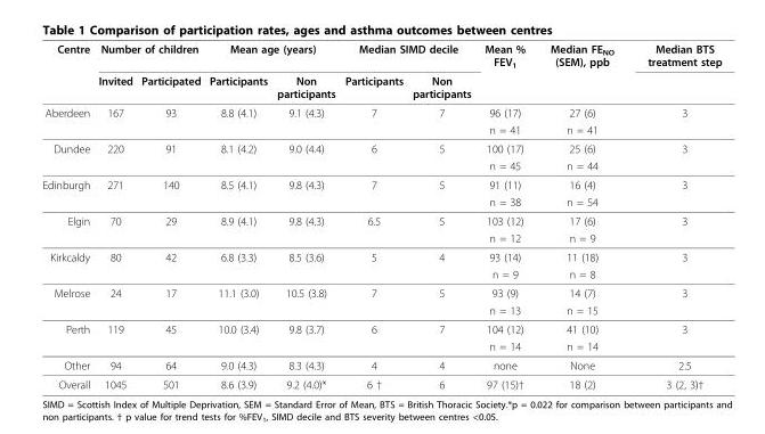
<table><thead><tr><td rowspan="2">Centre</td><td colspan="2">Number of children</td><td colspan="2">Mean age (years)</td><td colspan="2">Median SIMD decile</td><td rowspan="2">Mean % FEV<sub>1</sub></td><td rowspan="2">Median FE<sub>NO</sub> (SEM), ppb</td><td rowspan="2">Median BTS treatment step</td></tr><tr><td>Invited</td><td>Participated</td><td>Participants</td><td>Non participants</td><td>Participants</td><td>Non participants</td></tr></thead><tbody><tr><td rowspan="2">Aberdeen</td><td>167</td><td>93</td><td>8.8 (4.1)</td><td>9.1 (4.3)</td><td>7</td><td>7</td><td>96 (17)</td><td>27 (6)</td><td>3</td></tr><tr><td></td><td></td><td></td><td></td><td></td><td></td><td>n = 41</td><td>n = 41</td><td></td></tr><tr><td rowspan="2">Dundee</td><td>220</td><td>91</td><td>8.1 (4.2)</td><td>9.0 (4.4)</td><td>6</td><td>5</td><td>100 (17)</td><td>25 (6)</td><td>3</td></tr><tr><td></td><td></td><td></td><td></td><td></td><td></td><td>n = 45</td><td>n = 44</td><td></td></tr><tr><td rowspan="2">Edinburgh</td><td>271</td><td>140</td><td>8.5 (4.1)</td><td>9.8 (4.3)</td><td>7</td><td>5</td><td>91 (11)</td><td>16 (4)</td><td>3</td></tr><tr><td></td><td></td><td></td><td></td><td></td><td></td><td>n = 38</td><td>n = 54</td><td></td></tr><tr><td rowspan="2">Elgin</td><td>70</td><td>29</td><td>8.9 (4.1)</td><td>9.8 (4.3)</td><td>6.5</td><td>5</td><td>103 (12)</td><td>17 (6)</td><td>3</td></tr><tr><td></td><td></td><td></td><td></td><td></td><td></td><td>n = 12</td><td>n = 9</td><td></td></tr><tr><td rowspan="2">Kirkcaldy</td><td>80</td><td>42</td><td>6.8 (3.3)</td><td>8.5 (3.6)</td><td>5</td><td>4</td><td>93 (14)</td><td>11 (18)</td><td>3</td></tr><tr><td></td><td></td><td></td><td></td><td></td><td></td><td>n = 9</td><td>n = 8</td><td></td></tr><tr><td rowspan="2">Melrose</td><td>24</td><td>17</td><td>11.1 (3.0)</td><td>10.5 (3.8)</td><td>7</td><td>5</td><td>93 (9)</td><td>14 (7)</td><td>3</td></tr><tr><td></td><td></td><td></td><td></td><td></td><td></td><td>n = 13</td><td>n = 15</td><td></td></tr><tr><td rowspan="2">Perth</td><td>119</td><td>45</td><td>10.0 (3.4)</td><td>9.8 (3.7)</td><td>6</td><td>7</td><td>104 (12)</td><td>41 (10)</td><td>3</td></tr><tr><td></td><td></td><td></td><td></td><td></td><td></td><td>n = 14</td><td>n = 14</td><td></td></tr><tr><td>Other</td><td>94</td><td>64</td><td>9.0 (4.3)</td><td>8.3 (4.3)</td><td>4</td><td>4</td><td>none</td><td>None</td><td>2.5</td></tr><tr><td>Overall</td><td>1045</td><td>501</td><td>8.6 (3.9)</td><td>9.2 (4.0)*</td><td>6 †</td><td>6</td><td>97 (15)†</td><td>18 (2)</td><td>3 (2, 3)†</td></tr></tbody></table>